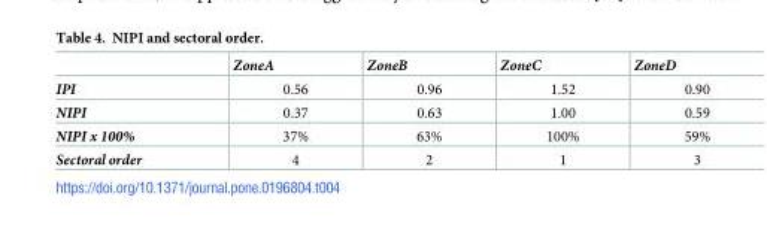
<table><thead><tr><td></td><td>ZoneA</td><td>ZoneB</td><td>ZoneC</td><td>ZoneD</td></tr></thead><tbody><tr><td>IPI</td><td>0.56</td><td>0.96</td><td>1.52</td><td>0.90</td></tr><tr><td>NIPI</td><td>0.37</td><td>0.63</td><td>1.00</td><td>0.59</td></tr><tr><td>NIPI x 100%</td><td>37%</td><td>63%</td><td>100%</td><td>59%</td></tr><tr><td>Sectoral order</td><td>4</td><td>2</td><td>1</td><td>3</td></tr></tbody></table>